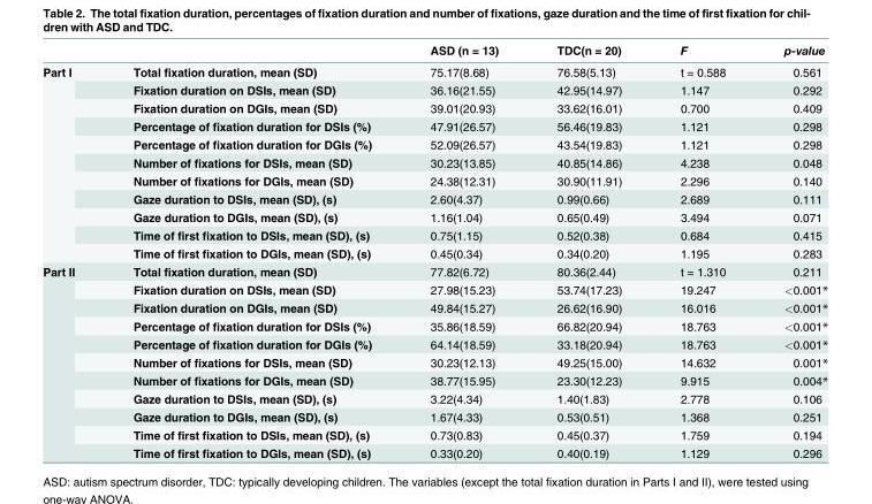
<table><thead><tr><td></td><td></td><td>ASD (n = 13)</td><td>TDC(n = 20)</td><td>F</td><td>p-value</td></tr></thead><tbody><tr><td rowspan="11">Part I</td><td>Total fixation duration, mean (SD)</td><td>75.17(8.68)</td><td>76.58(5.13)</td><td>t = 0.588</td><td>0.561</td></tr><tr><td>Fixation duration on DSIs, mean (SD)</td><td>36.16(21.55)</td><td>42.95(14.97)</td><td>1.147</td><td>0.292</td></tr><tr><td>Fixation duration on DGIs, mean (SD)</td><td>39.01(20.93)</td><td>33.62(16.01)</td><td>0.700</td><td>0.409</td></tr><tr><td>Percentage of fixation duration for DSIs (%)</td><td>47.91(26.57)</td><td>56.46(19.83)</td><td>1.121</td><td>0.298</td></tr><tr><td>Percentage of fixation duration for DGIs (%)</td><td>52.09(26.57)</td><td>43.54(19.83)</td><td>1.121</td><td>0.298</td></tr><tr><td>Number of fixations for DSIs, mean (SD)</td><td>30.23(13.85)</td><td>40.85(14.86)</td><td>4.238</td><td>0.048</td></tr><tr><td>Number of fixations for DGIs, mean (SD)</td><td>24.38(12.31)</td><td>30.90(11.91)</td><td>2.296</td><td>0.140</td></tr><tr><td>Gaze duration to DSIs, mean (SD), (s)</td><td>2.60(4.37)</td><td>0.99(0.66)</td><td>2.689</td><td>0.111</td></tr><tr><td>Gaze duration to DGIs, mean (SD), (s)</td><td>1.16(1.04)</td><td>0.65(0.49)</td><td>3.494</td><td>0.071</td></tr><tr><td>Time of first fixation to DSIs, mean (SD), (s)</td><td>0.75(1.15)</td><td>0.52(0.38)</td><td>0.684</td><td>0.415</td></tr><tr><td>Time of first fixation to DGIs, mean (SD), (s)</td><td>0.45(0.34)</td><td>0.34(0.20)</td><td>1.195</td><td>0.283</td></tr><tr><td rowspan="11">Part II</td><td>Total fixation duration, mean (SD)</td><td>77.82(6.72)</td><td>80.36(2.44)</td><td>t = 1.310</td><td>0.211</td></tr><tr><td>Fixation duration on DSIs, mean (SD)</td><td>27.98(15.23)</td><td>53.74(17.23)</td><td>19.247</td><td>&lt;0.001*</td></tr><tr><td>Fixation duration on DGIs, mean (SD)</td><td>49.84(15.27)</td><td>26.62(16.90)</td><td>16.016</td><td>&lt;0.001*</td></tr><tr><td>Percentage of fixation duration for DSIs (%)</td><td>35.86(18.59)</td><td>66.82(20.94)</td><td>18.763</td><td>&lt;0.001*</td></tr><tr><td>Percentage of fixation duration for DGIs (%)</td><td>64.14(18.59)</td><td>33.18(20.94)</td><td>18.763</td><td>&lt;0.001*</td></tr><tr><td>Number of fixations for DSIs, mean (SD)</td><td>30.23(12.13)</td><td>49.25(15.00)</td><td>14.632</td><td>0.001*</td></tr><tr><td>Number of fixations for DGIs, mean (SD)</td><td>38.77(15.95)</td><td>23.30(12.23)</td><td>9.915</td><td>0.004*</td></tr><tr><td>Gaze duration to DSIs, mean (SD), (s)</td><td>3.22(4.34)</td><td>1.40(1.83)</td><td>2.778</td><td>0.106</td></tr><tr><td>Gaze duration to DGIs, mean (SD), (s)</td><td>1.67(4.33)</td><td>0.53(0.51)</td><td>1.368</td><td>0.251</td></tr><tr><td>Time of first fixation to DSIs, mean (SD), (s)</td><td>0.73(0.83)</td><td>0.45(0.37)</td><td>1.759</td><td>0.194</td></tr><tr><td>Time of first fixation to DGIs, mean (SD), (s)</td><td>0.33(0.20)</td><td>0.40(0.19)</td><td>1.129</td><td>0.296</td></tr></tbody></table>